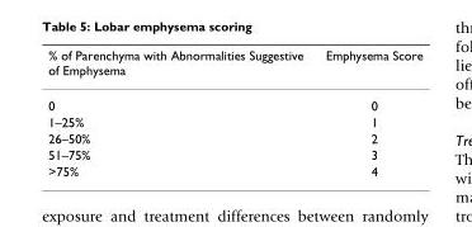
<table><thead><tr><td>% of Parenchyma with Abnormalities Suggestive of Emphysema</td><td>Emphysema Score</td></tr></thead><tbody><tr><td>0</td><td>0</td></tr><tr><td>1–25%</td><td>1</td></tr><tr><td>26–50%</td><td>2</td></tr><tr><td>51–75%</td><td>3</td></tr><tr><td>&gt;75%</td><td>4</td></tr></tbody></table>